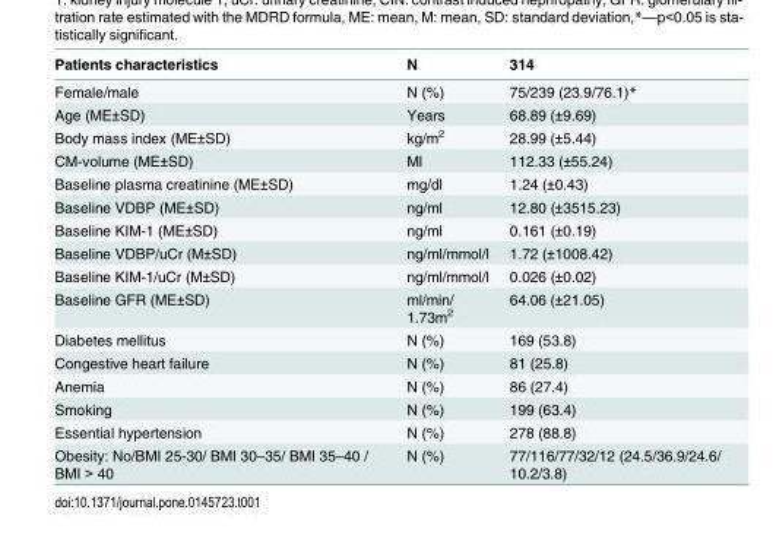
<table><thead><tr><td>Patients characteristics</td><td>N</td><td>314</td></tr></thead><tbody><tr><td>Female/male</td><td>N (%)</td><td>75/239 (23.9/76.1)*</td></tr><tr><td>Age (ME±SD)</td><td>Years</td><td>68.89 (±9.69)</td></tr><tr><td>Body mass index (ME±SD)</td><td>kg/m<sup>2</sup></td><td>28.99 (±5.44)</td></tr><tr><td>CM-volume (ME±SD)</td><td>Ml</td><td>112.33 (±55.24)</td></tr><tr><td>Baseline plasma creatinine (ME±SD)</td><td>mg/dl</td><td>1.24 (±0.43)</td></tr><tr><td>Baseline VDBP (ME±SD)</td><td>ng/ml</td><td>12.80 (±3515.23)</td></tr><tr><td>Baseline KIM-1 (ME±SD)</td><td>ng/ml</td><td>0.161 (±0.19)</td></tr><tr><td>Baseline VDBP/uCr (M±SD)</td><td>ng/ml/mmol/l</td><td>1.72 (±1008.42)</td></tr><tr><td>Baseline KIM-1/uCr (M±SD)</td><td>ng/ml/mmol/l</td><td>0.026 (±0.02)</td></tr><tr><td>Baseline GFR (ME±SD)</td><td>ml/min/ 1.73m<sup>2</sup></td><td>64.06 (±21.05)</td></tr><tr><td>Diabetes mellitus</td><td>N (%)</td><td>169 (53.8)</td></tr><tr><td>Congestive heart failure</td><td>N (%)</td><td>81 (25.8)</td></tr><tr><td>Anemia</td><td>N (%)</td><td>86 (27.4)</td></tr><tr><td>Smoking</td><td>N (%)</td><td>199 (63.4)</td></tr><tr><td>Essential hypertension</td><td>N (%)</td><td>278 (88.8)</td></tr><tr><td>Obesity: No/BMI 25-30/ BMI 30–35/ BMI 35–40 / BMI &gt; 40</td><td>N (%)</td><td>77/116/77/32/12 (24.5/36.9/24.6/ 10.2/3.8)</td></tr></tbody></table>